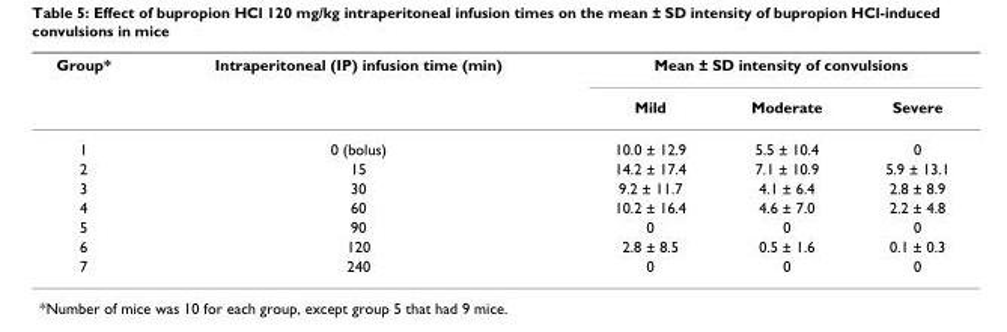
<table><thead><tr><td rowspan="2">Group*</td><td rowspan="2">Intraperitoneal (IP) infusion time (min)</td><td colspan="3">Mean ± SD intensity of convulsions</td></tr><tr><td>Mild</td><td>Moderate</td><td>Severe</td></tr></thead><tbody><tr><td>1</td><td>0 (bolus)</td><td>10.0 ± 12.9</td><td>5.5 ± 10.4</td><td>0</td></tr><tr><td>2</td><td>15</td><td>14.2 ± 17.4</td><td>7.1 ± 10.9</td><td>5.9 ± 13.1</td></tr><tr><td>3</td><td>30</td><td>9.2 ± 11.7</td><td>4.1 ± 6.4</td><td>2.8 ± 8.9</td></tr><tr><td>4</td><td>60</td><td>10.2 ± 16.4</td><td>4.6 ± 7.0</td><td>2.2 ± 4.8</td></tr><tr><td>5</td><td>90</td><td>0</td><td>0</td><td>0</td></tr><tr><td>6</td><td>120</td><td>2.8 ± 8.5</td><td>0.5 ± 1.6</td><td>0.1 ± 0.3</td></tr><tr><td>7</td><td>240</td><td>0</td><td>0</td><td>0</td></tr></tbody></table>